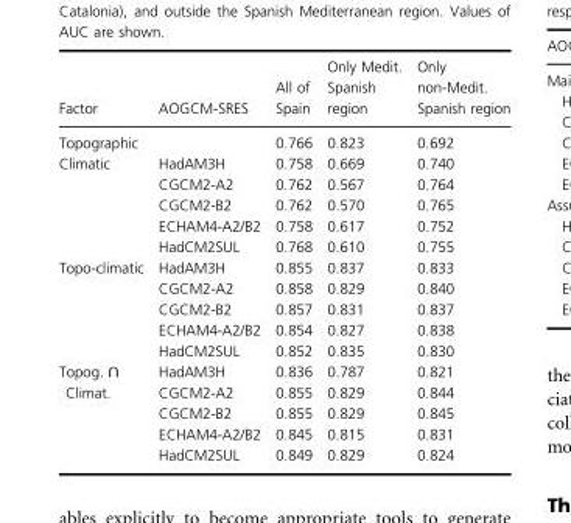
<table><thead><tr><td>Factor</td><td>AOGCM-SRES</td><td>All of Spain</td><td>Only Medit. Spanish region</td><td>Only non-Medit. Spanish region</td></tr></thead><tbody><tr><td>Topographic</td><td></td><td>0.766</td><td>0.823</td><td>0.692</td></tr><tr><td rowspan="5">Climatic</td><td>HadAM3H</td><td>0.758</td><td>0.669</td><td>0.740</td></tr><tr><td>CGCM2-A2</td><td>0.762</td><td>0.567</td><td>0.764</td></tr><tr><td>CGCM2-B2</td><td>0.762</td><td>0.570</td><td>0.765</td></tr><tr><td>ECHAM4-A2/B2</td><td>0.758</td><td>0.617</td><td>0.752</td></tr><tr><td>HadCM2SUL</td><td>0.768</td><td>0.610</td><td>0.755</td></tr><tr><td rowspan="5">Topo-climatic</td><td>HadAM3H</td><td>0.855</td><td>0.837</td><td>0.833</td></tr><tr><td>CGCM2-A2</td><td>0.858</td><td>0.829</td><td>0.840</td></tr><tr><td>CGCM2-B2</td><td>0.857</td><td>0.831</td><td>0.837</td></tr><tr><td>ECHAM4-A2/B2</td><td>0.854</td><td>0.827</td><td>0.838</td></tr><tr><td>HadCM2SUL</td><td>0.852</td><td>0.835</td><td>0.830</td></tr><tr><td rowspan="5">Topog. ∩ Climat.</td><td>HadAM3H</td><td>0.836</td><td>0.787</td><td>0.821</td></tr><tr><td>CGCM2-A2</td><td>0.855</td><td>0.829</td><td>0.844</td></tr><tr><td>CGCM2-B2</td><td>0.855</td><td>0.829</td><td>0.845</td></tr><tr><td>ECHAM4-A2/B2</td><td>0.845</td><td>0.815</td><td>0.831</td></tr><tr><td>HadCM2SUL</td><td>0.849</td><td>0.829</td><td>0.824</td></tr></tbody></table>